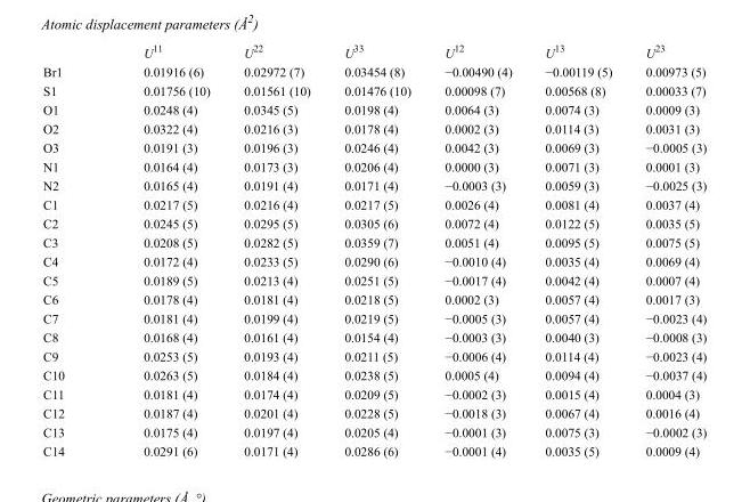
<table><thead><tr><td></td><td>U<sup>11</sup></td><td>U<sup>22</sup></td><td>U<sup>33</sup></td><td>U<sup>12</sup></td><td>U<sup>13</sup></td><td>U<sup>23</sup></td></tr></thead><tbody><tr><td>Br1</td><td>0.01916 (6)</td><td>0.02972 (7)</td><td>0.03454 (8)</td><td>−0.00490 (4)</td><td>−0.00119 (5)</td><td>0.00973 (5)</td></tr><tr><td>S1</td><td>0.01756 (10)</td><td>0.01561 (10)</td><td>0.01476 (10)</td><td>0.00098 (7)</td><td>0.00568 (8)</td><td>0.00033 (7)</td></tr><tr><td>O1</td><td>0.0248 (4)</td><td>0.0345 (5)</td><td>0.0198 (4)</td><td>0.0064 (3)</td><td>0.0074 (3)</td><td>0.0009 (3)</td></tr><tr><td>O2</td><td>0.0322 (4)</td><td>0.0216 (3)</td><td>0.0178 (4)</td><td>0.0002 (3)</td><td>0.0114 (3)</td><td>0.0031 (3)</td></tr><tr><td>O3</td><td>0.0191 (3)</td><td>0.0196 (3)</td><td>0.0246 (4)</td><td>0.0042 (3)</td><td>0.0069 (3)</td><td>−0.0005 (3)</td></tr><tr><td>N1</td><td>0.0164 (4)</td><td>0.0173 (3)</td><td>0.0206 (4)</td><td>0.0000 (3)</td><td>0.0071 (3)</td><td>0.0001 (3)</td></tr><tr><td>N2</td><td>0.0165 (4)</td><td>0.0191 (4)</td><td>0.0171 (4)</td><td>−0.0003 (3)</td><td>0.0059 (3)</td><td>−0.0025 (3)</td></tr><tr><td>C1</td><td>0.0217 (5)</td><td>0.0216 (4)</td><td>0.0217 (5)</td><td>0.0026 (4)</td><td>0.0081 (4)</td><td>0.0037 (4)</td></tr><tr><td>C2</td><td>0.0245 (5)</td><td>0.0295 (5)</td><td>0.0305 (6)</td><td>0.0072 (4)</td><td>0.0122 (5)</td><td>0.0035 (5)</td></tr><tr><td>C3</td><td>0.0208 (5)</td><td>0.0282 (5)</td><td>0.0359 (7)</td><td>0.0051 (4)</td><td>0.0095 (5)</td><td>0.0075 (5)</td></tr><tr><td>C4</td><td>0.0172 (4)</td><td>0.0233 (5)</td><td>0.0290 (6)</td><td>−0.0010 (4)</td><td>0.0035 (4)</td><td>0.0069 (4)</td></tr><tr><td>C5</td><td>0.0189 (5)</td><td>0.0213 (4)</td><td>0.0251 (5)</td><td>−0.0017 (4)</td><td>0.0042 (4)</td><td>0.0007 (4)</td></tr><tr><td>C6</td><td>0.0178 (4)</td><td>0.0181 (4)</td><td>0.0218 (5)</td><td>0.0002 (3)</td><td>0.0057 (4)</td><td>0.0017 (3)</td></tr><tr><td>C7</td><td>0.0181 (4)</td><td>0.0199 (4)</td><td>0.0219 (5)</td><td>−0.0005 (3)</td><td>0.0057 (4)</td><td>−0.0023 (4)</td></tr><tr><td>C8</td><td>0.0168 (4)</td><td>0.0161 (4)</td><td>0.0154 (4)</td><td>−0.0003 (3)</td><td>0.0040 (3)</td><td>−0.0008 (3)</td></tr><tr><td>C9</td><td>0.0253 (5)</td><td>0.0193 (4)</td><td>0.0211 (5)</td><td>−0.0006 (4)</td><td>0.0114 (4)</td><td>−0.0023 (4)</td></tr><tr><td>C10</td><td>0.0263 (5)</td><td>0.0184 (4)</td><td>0.0238 (5)</td><td>0.0005 (4)</td><td>0.0094 (4)</td><td>−0.0037 (4)</td></tr><tr><td>C11</td><td>0.0181 (4)</td><td>0.0174 (4)</td><td>0.0209 (5)</td><td>−0.0002 (3)</td><td>0.0015 (4)</td><td>0.0004 (3)</td></tr><tr><td>C12</td><td>0.0187 (4)</td><td>0.0201 (4)</td><td>0.0228 (5)</td><td>−0.0018 (3)</td><td>0.0067 (4)</td><td>0.0016 (4)</td></tr><tr><td>C13</td><td>0.0175 (4)</td><td>0.0197 (4)</td><td>0.0205 (4)</td><td>−0.0001 (3)</td><td>0.0075 (3)</td><td>−0.0002 (3)</td></tr><tr><td>C14</td><td>0.0291 (6)</td><td>0.0171 (4)</td><td>0.0286 (6)</td><td>−0.0001 (4)</td><td>0.0035 (5)</td><td>0.0009 (4)</td></tr></tbody></table>